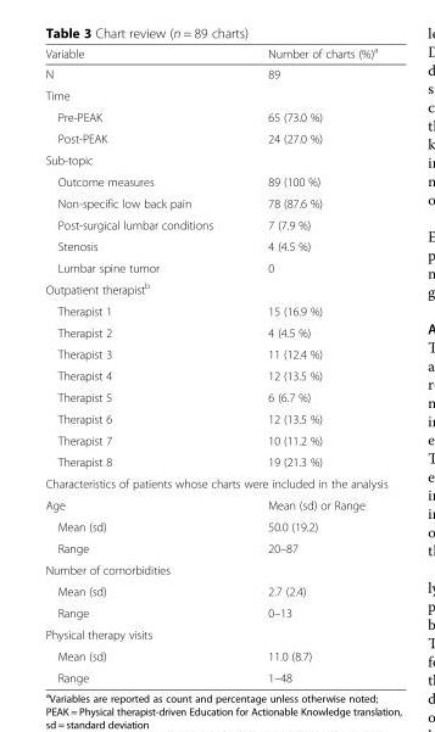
<table><thead><tr><td>Variable</td><td>Number of charts (%)<sup>a</sup></td></tr></thead><tbody><tr><td>N</td><td>89</td></tr><tr><td colspan="2">Time</td></tr><tr><td>Pre-PEAK</td><td>65 (73.0 %)</td></tr><tr><td>Post-PEAK</td><td>24 (27.0 %)</td></tr><tr><td colspan="2">Sub-topic</td></tr><tr><td>Outcome measures</td><td>89 (100 %)</td></tr><tr><td>Non-specific low back pain</td><td>78 (87.6 %)</td></tr><tr><td>Post-surgical lumbar conditions</td><td>7 (7.9 %)</td></tr><tr><td>Stenosis</td><td>4 (4.5 %)</td></tr><tr><td>Lumbar spine tumor</td><td>0</td></tr><tr><td colspan="2">Outpatient therapist<sup>b</sup></td></tr><tr><td>Therapist 1</td><td>15 (16.9 %)</td></tr><tr><td>Therapist 2</td><td>4 (4.5 %)</td></tr><tr><td>Therapist 3</td><td>11 (12.4 %)</td></tr><tr><td>Therapist 4</td><td>12 (13.5 %)</td></tr><tr><td>Therapist 5</td><td>6 (6.7 %)</td></tr><tr><td>Therapist 6</td><td>12 (13.5 %)</td></tr><tr><td>Therapist 7</td><td>10 (11.2 %)</td></tr><tr><td>Therapist 8</td><td>19 (21.3 %)</td></tr><tr><td colspan="2">Characteristics of patients whose charts were included in the analysis</td></tr><tr><td>Age</td><td>Mean (sd) or Range</td></tr><tr><td>Mean (sd)</td><td>50.0 (19.2)</td></tr><tr><td>Range</td><td>20–87</td></tr><tr><td colspan="2">Number of comorbidities</td></tr><tr><td>Mean (sd)</td><td>2.7 (2.4)</td></tr><tr><td>Range</td><td>0–13</td></tr><tr><td colspan="2">Physical therapy visits</td></tr><tr><td>Mean (sd)</td><td>11.0 (8.7)</td></tr><tr><td>Range</td><td>1–48</td></tr></tbody></table>